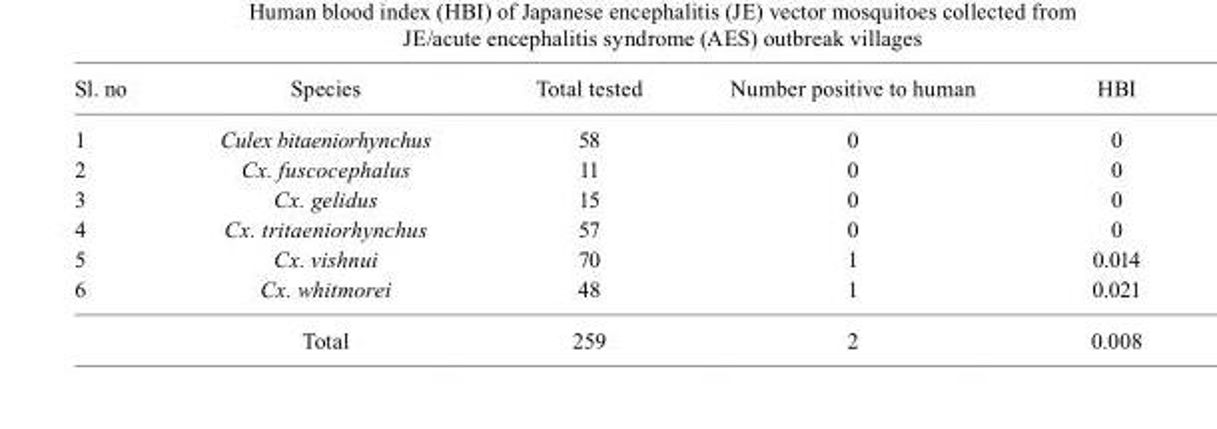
<table><thead><tr><td>Sl. no</td><td>Species</td><td>Total tested</td><td>Number positive to human</td><td>HBI</td></tr></thead><tbody><tr><td>1</td><td>Culex bitaeniorhynchus</td><td>58</td><td>0</td><td>0</td></tr><tr><td>2</td><td>Cx. fuscocephalus</td><td>11</td><td>0</td><td>0</td></tr><tr><td>3</td><td>Cx. gelidus</td><td>15</td><td>0</td><td>0</td></tr><tr><td>4</td><td>Cx. tritaeniorhynchus</td><td>57</td><td>0</td><td>0</td></tr><tr><td>5</td><td>Cx. vishnui</td><td>70</td><td>1</td><td>0.014</td></tr><tr><td rowspan="2">6</td><td>Cx. whitmorei</td><td>48</td><td>1</td><td>0.021</td></tr><tr><td>Total</td><td>259</td><td>2</td><td>0.008</td></tr></tbody></table>